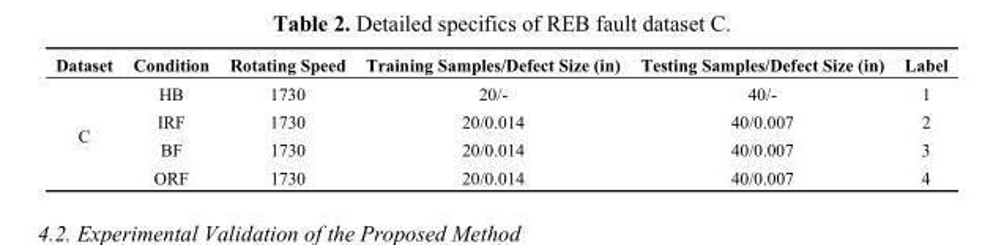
<table><thead><tr><td>Dataset</td><td>Condition</td><td>Rotating Speed</td><td>Training Samples/Defect Size (in)</td><td>Testing Samples/Defect Size (in)</td><td>Label</td></tr></thead><tbody><tr><td rowspan="4">C</td><td>HB</td><td>1730</td><td>20/-</td><td>40/-</td><td>1</td></tr><tr><td>IRF</td><td>1730</td><td>20/0.014</td><td>40/0.007</td><td>2</td></tr><tr><td>BF</td><td>1730</td><td>20/0.014</td><td>40/0.007</td><td>3</td></tr><tr><td>ORF</td><td>1730</td><td>20/0.014</td><td>40/0.007</td><td>4</td></tr></tbody></table>